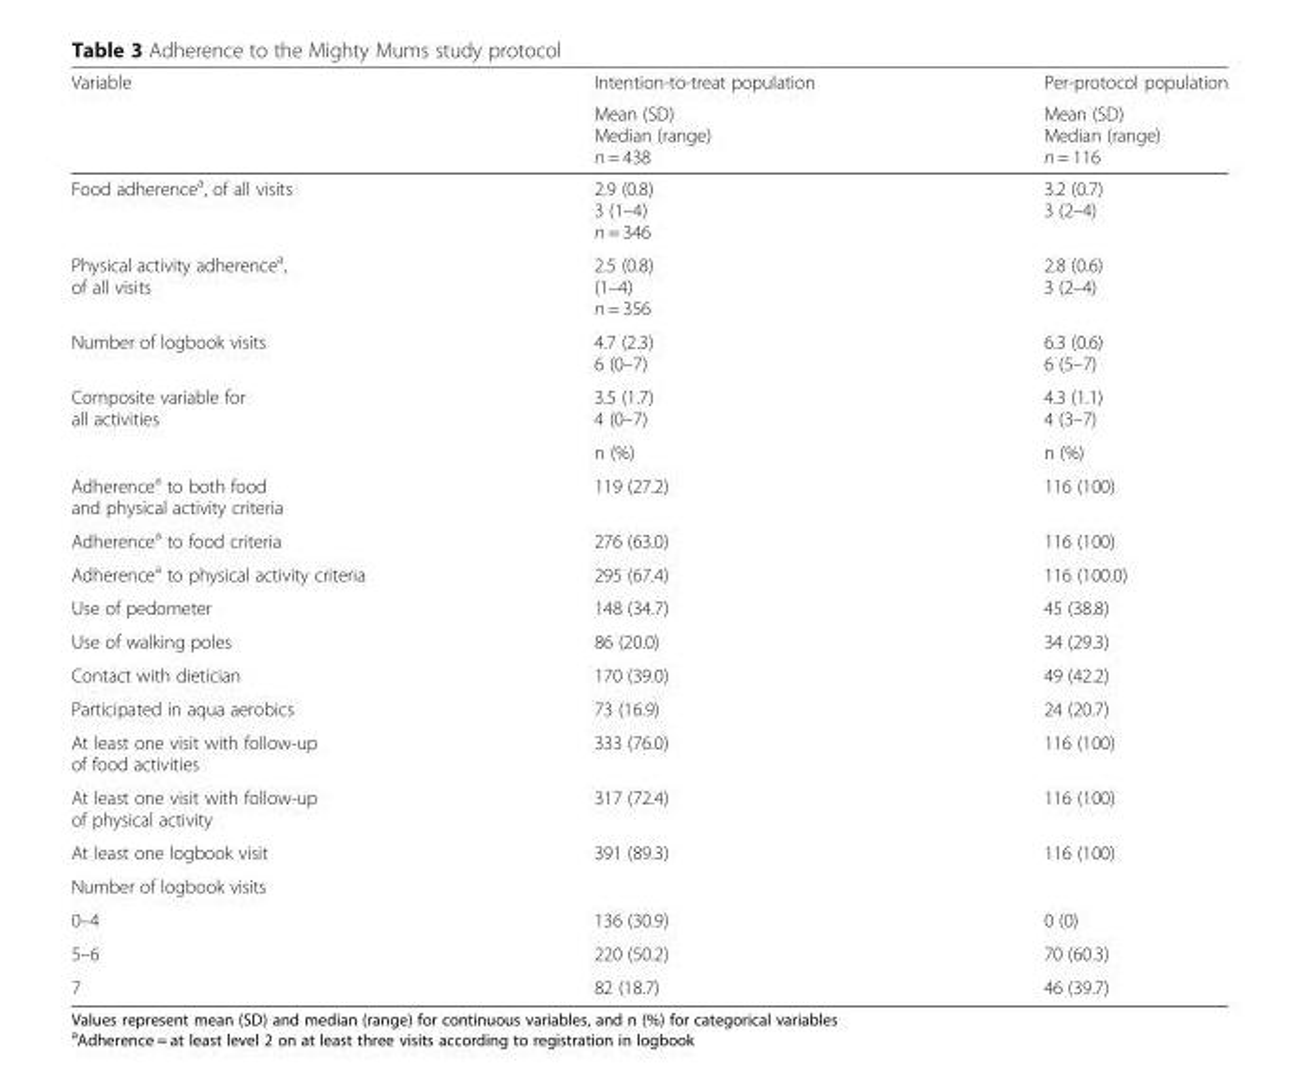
<table><thead><tr><td rowspan="2">Variable</td><td rowspan="2">Intention-to-treat population Mean (SD) Median (range) n = 438</td><td rowspan="2">Per-protocol population Mean (SD) Median (range) n = 116</td></tr><tr></tr></thead><tbody><tr><td>Food adherence<sup>a</sup>, of all visits</td><td>2.9 (0.8) 3 (1–4) n = 346</td><td>3.2 (0.7) 3 (2–4)</td></tr><tr><td>Physical activity adherence<sup>a</sup>, of all visits</td><td>2.5 (0.8) (1–4) n = 356</td><td>2.8 (0.6) 3 (2–4)</td></tr><tr><td>Number of logbook visits</td><td>4.7 (2.3) 6 (0–7)</td><td>6.3 (0.6) 6 (5–7)</td></tr><tr><td rowspan="2">Composite variable for all activities</td><td>3.5 (1.7) 4 (0–7)</td><td>4.3 (1.1) 4 (3–7)</td></tr><tr><td>n (%)</td><td>n (%)</td></tr><tr><td>Adherence<sup>a</sup> to both food and physical activity criteria</td><td>119 (27.2)</td><td>116 (100)</td></tr><tr><td>Adherence<sup>a</sup> to food criteria</td><td>276 (63.0)</td><td>116 (100)</td></tr><tr><td>Adherence<sup>a</sup> to physical activity criteria</td><td>295 (67.4)</td><td>116 (100.0)</td></tr><tr><td>Use of pedometer</td><td>148 (34.7)</td><td>45 (38.8)</td></tr><tr><td>Use of walking poles</td><td>86 (20.0)</td><td>34 (29.3)</td></tr><tr><td>Contact with dietician</td><td>170 (39.0)</td><td>49 (42.2)</td></tr><tr><td>Participated in aqua aerobics</td><td>73 (16.9)</td><td>24 (20.7)</td></tr><tr><td>At least one visit with follow-up of food activities</td><td>333 (76.0)</td><td>116 (100)</td></tr><tr><td>At least one visit with follow-up of physical activity</td><td>317 (72.4)</td><td>116 (100)</td></tr><tr><td>At least one logbook visit</td><td>391 (89.3)</td><td>116 (100)</td></tr><tr><td colspan="3">Number of logbook visits</td></tr><tr><td>0–4</td><td>136 (30.9)</td><td>0 (0)</td></tr><tr><td>5–6</td><td>220 (50.2)</td><td>70 (60.3)</td></tr><tr><td>7</td><td>82 (18.7)</td><td>46 (39.7)</td></tr></tbody></table>